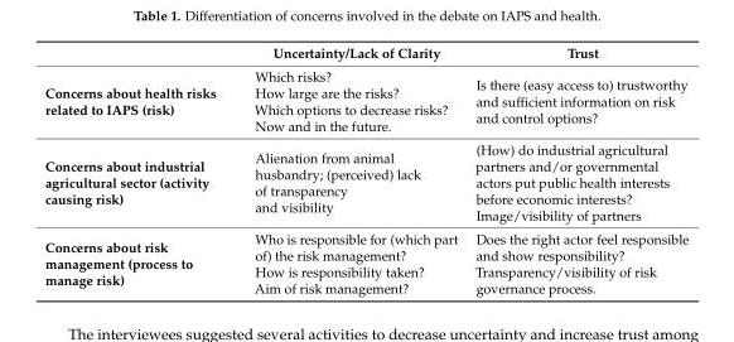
<table><thead><tr><td></td><td>Uncertainty/Lack of Clarity</td><td>Trust</td></tr></thead><tbody><tr><td>Concerns about health risks related to IAPS (risk)</td><td>Which risks? How large are the risks? Which options to decrease risks? Now and in the future.</td><td>Is there (easy access to) trustworthy and sufficient information on risk and control options?</td></tr><tr><td>Concerns about industrial agricultural sector (activity causing risk)</td><td>Alienation from animal husbandry; (perceived) lack of transparency and visibility</td><td>(How) do industrial agricultural partners and/or governmental actors put public health interests before economic interests? Image/visibility of partners</td></tr><tr><td>Concerns about risk management (process to manage risk)</td><td>Who is responsible for (which part of) the risk management? How is responsibility taken? Aim of risk management?</td><td>Does the right actor feel responsible and show responsibility? Transparency/visibility of risk governance process.</td></tr></tbody></table>